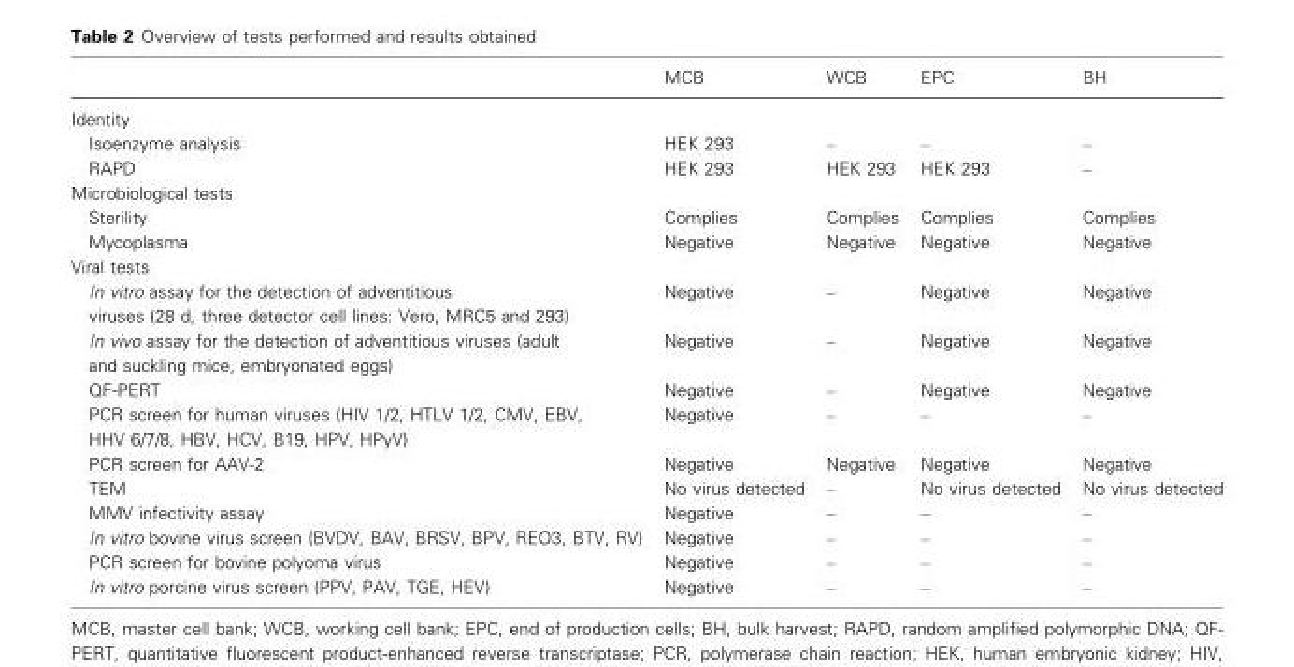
<table><thead><tr><td></td><td>MCB</td><td>WCB</td><td>EPC</td><td>BH</td></tr></thead><tbody><tr><td colspan="5">Identity</td></tr><tr><td>Isoenzyme analysis</td><td>HEK 293</td><td>–</td><td>–</td><td>–</td></tr><tr><td>RAPD</td><td>HEK 293</td><td>HEK 293</td><td>HEK 293</td><td>–</td></tr><tr><td colspan="5">Microbiological tests</td></tr><tr><td>Sterility</td><td>Complies</td><td>Complies</td><td>Complies</td><td>Complies</td></tr><tr><td>Mycoplasma</td><td>Negative</td><td>Negative</td><td>Negative</td><td>Negative</td></tr><tr><td colspan="5">Viral tests</td></tr><tr><td>In vitro assay for the detection of adventitious viruses (28 d, three detector cell lines: Vero, MRC5 and 293)</td><td>Negative</td><td>–</td><td>Negative</td><td>Negative</td></tr><tr><td>In vivo assay for the detection of adventitious viruses (adult and suckling mice, embryonated eggs)</td><td>Negative</td><td>–</td><td>Negative</td><td>Negative</td></tr><tr><td>QF-PERT</td><td>Negative</td><td>–</td><td>Negative</td><td>Negative</td></tr><tr><td>PCR screen for human viruses (HIV 1/2, HTLV 1/2, CMV, EBV, HHV 6/7/8, HBV, HCV, B19, HPV, HPyV)</td><td>Negative</td><td>–</td><td>–</td><td>–</td></tr><tr><td>PCR screen for AAV-2</td><td>Negative</td><td>Negative</td><td>Negative</td><td>Negative</td></tr><tr><td>TEM</td><td>No virus detected</td><td>–</td><td>No virus detected</td><td>No virus detected</td></tr><tr><td>MMV infectivity assay</td><td>Negative</td><td>–</td><td>–</td><td>–</td></tr><tr><td>In vitro bovine virus screen (BVDV, BAV, BRSV, BPV, REO3, BTV, RV)</td><td>Negative</td><td>–</td><td>–</td><td>–</td></tr><tr><td>PCR screen for bovine polyoma virus</td><td>Negative</td><td>–</td><td>–</td><td>–</td></tr><tr><td>In vitro porcine virus screen (PPV, PAV, TGE, HEV)</td><td>Negative</td><td>–</td><td>–</td><td>–</td></tr></tbody></table>